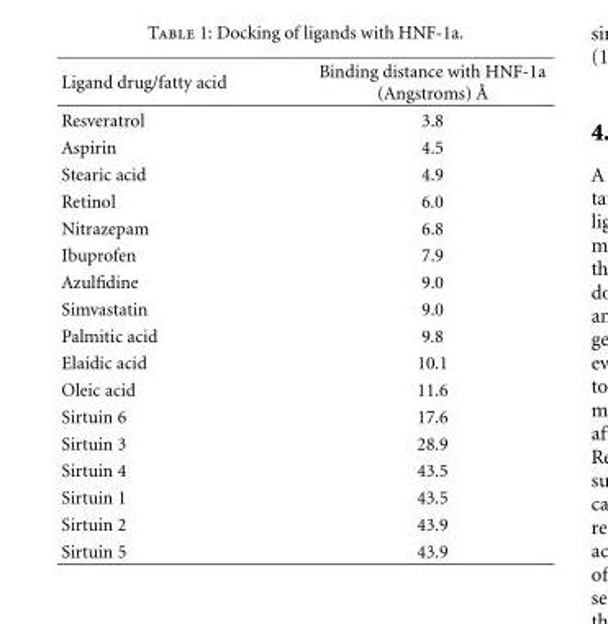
<table><thead><tr><td>Ligand drug/fatty acid</td><td>Binding distance with HNF-1a (Angstroms) ˚A</td></tr></thead><tbody><tr><td>Resveratrol</td><td>3.8</td></tr><tr><td>Aspirin</td><td>4.5</td></tr><tr><td>Stearic acid</td><td>4.9</td></tr><tr><td>Retinol</td><td>6.0</td></tr><tr><td>Nitrazepam</td><td>6.8</td></tr><tr><td>Ibuprofen</td><td>7.9</td></tr><tr><td>Azulfidine</td><td>9.0</td></tr><tr><td>Simvastatin</td><td>9.0</td></tr><tr><td>Palmitic acid</td><td>9.8</td></tr><tr><td>Elaidic acid</td><td>10.1</td></tr><tr><td>Oleic acid</td><td>11.6</td></tr><tr><td>Sirtuin 6</td><td>17.6</td></tr><tr><td>Sirtuin 3</td><td>28.9</td></tr><tr><td>Sirtuin 4</td><td>43.5</td></tr><tr><td>Sirtuin 1</td><td>43.5</td></tr><tr><td>Sirtuin 2</td><td>43.9</td></tr><tr><td>Sirtuin 5</td><td>43.9</td></tr></tbody></table>